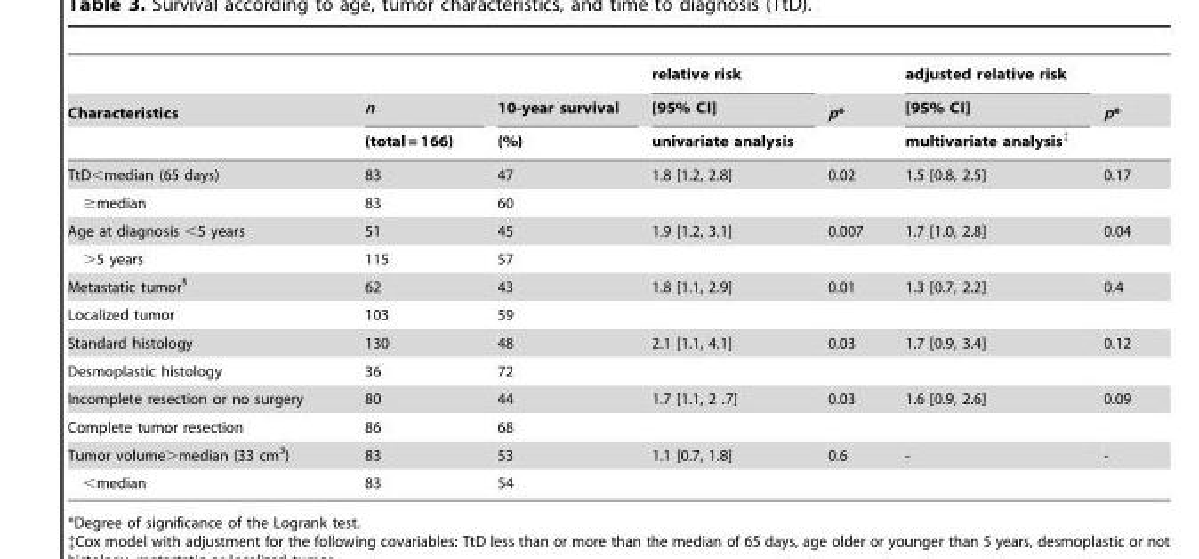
<table><thead><tr><td rowspan="3">Characteristics</td><td rowspan="3">n (total = 166)</td><td rowspan="3">10-year survival (%)</td><td rowspan="3">relative risk [95% CI] univariate analysis</td><td rowspan="3">p*</td><td rowspan="3">adjusted relative risk [95% CI] multivariate analysis‡</td><td rowspan="3">p*</td></tr><tr></tr><tr></tr></thead><tbody><tr><td>TtD&lt;median (65 days)</td><td>83</td><td>47</td><td>1.8 [1.2, 2.8]</td><td>0.02</td><td>1.5 [0.8, 2.5]</td><td>0.17</td></tr><tr><td>≥median</td><td>83</td><td>60</td><td></td><td></td><td></td><td></td></tr><tr><td>Age at diagnosis &lt;5 years</td><td>51</td><td>45</td><td>1.9 [1.2, 3.1]</td><td>0.007</td><td>1.7 [1.0, 2.8]</td><td>0.04</td></tr><tr><td>&gt;5 years</td><td>115</td><td>57</td><td></td><td></td><td></td><td></td></tr><tr><td>Metastatic tumor§</td><td>62</td><td>43</td><td>1.8 [1.1, 2.9]</td><td>0.01</td><td>1.3 [0.7, 2.2]</td><td>0.4</td></tr><tr><td>Localized tumor</td><td>103</td><td>59</td><td></td><td></td><td></td><td></td></tr><tr><td>Standard histology</td><td>130</td><td>48</td><td>2.1 [1.1, 4.1]</td><td>0.03</td><td>1.7 [0.9, 3.4]</td><td>0.12</td></tr><tr><td>Desmoplastic histology</td><td>36</td><td>72</td><td></td><td></td><td></td><td></td></tr><tr><td>Incomplete resection or no surgery</td><td>80</td><td>44</td><td>1.7 [1.1, 2 .7]</td><td>0.03</td><td>1.6 [0.9, 2.6]</td><td>0.09</td></tr><tr><td>Complete tumor resection</td><td>86</td><td>68</td><td></td><td></td><td></td><td></td></tr><tr><td>Tumor volume&gt;median (33 cm<sup>3</sup>)</td><td>83</td><td>53</td><td>1.1 [0.7, 1.8]</td><td>0.6</td><td>-</td><td>-</td></tr><tr><td>&lt;median</td><td>83</td><td>54</td><td></td><td></td><td></td><td></td></tr></tbody></table>